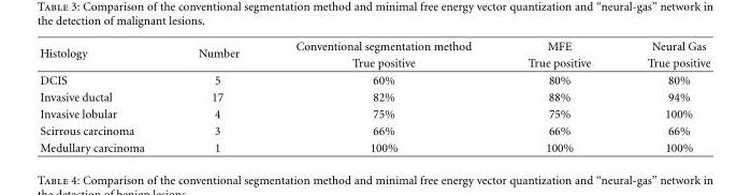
<table><thead><tr><td rowspan="2">Histology</td><td rowspan="2">Number</td><td rowspan="2">Conventional segmentation method True positive</td><td rowspan="2">MFE True positive</td><td rowspan="2">Neural Gas True positive</td></tr><tr></tr></thead><tbody><tr><td>DCIS</td><td>5</td><td>60%</td><td>80%</td><td>80%</td></tr><tr><td>Invasive ductal</td><td>17</td><td>82%</td><td>88%</td><td>94%</td></tr><tr><td>Invasive lobular</td><td>4</td><td>75%</td><td>75%</td><td>100%</td></tr><tr><td>Scirrous carcinoma</td><td>3</td><td>66%</td><td>66%</td><td>66%</td></tr><tr><td>Medullary carcinoma</td><td>1</td><td>100%</td><td>100%</td><td>100%</td></tr></tbody></table>